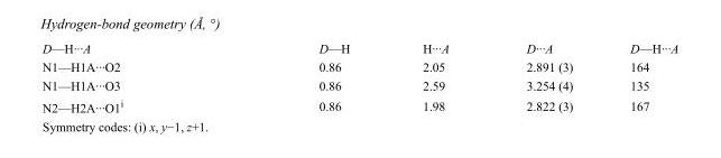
<table><tbody><tr><td>D—H···A</td><td>D—H</td><td>H···A</td><td>D···A</td><td>D—H···A</td></tr><tr><td>N1—H1A···O2</td><td>0.86</td><td>2.05</td><td>2.891 (3)</td><td>164</td></tr><tr><td>N1—H1A···O3</td><td>0.86</td><td>2.59</td><td>3.254 (4)</td><td>135</td></tr><tr><td>N2—H2A···O1<sup>i</sup></td><td>0.86</td><td>1.98</td><td>2.822 (3)</td><td>167</td></tr></tbody></table>